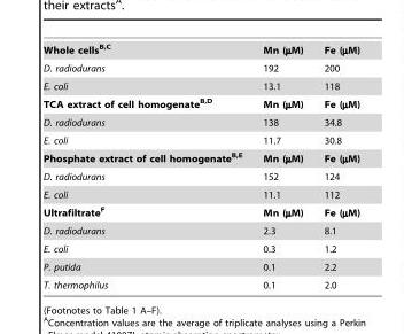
<table><tbody><tr><td>Whole cellsB<sup>,</sup>C</td><td>Mn (µM)</td><td>Fe (µM)</td></tr><tr><td>D. radiodurans</td><td>192</td><td>200</td></tr><tr><td>E. coli</td><td>13.1</td><td>118</td></tr><tr><td>TCA extract of cell homogenateB<sup>,</sup>D</td><td>Mn (µM)</td><td>Fe (µM)</td></tr><tr><td>D. radiodurans</td><td>138</td><td>34.8</td></tr><tr><td>E. coli</td><td>11.7</td><td>30.8</td></tr><tr><td>Phosphate extract of cell homogenateB<sup>,</sup>E</td><td>Mn (µM)</td><td>Fe (µM)</td></tr><tr><td>D. radiodurans</td><td>152</td><td>124</td></tr><tr><td>E. coli</td><td>11.1</td><td>112</td></tr><tr><td>UltrafiltrateF</td><td>Mn (µM)</td><td>Fe (µM)</td></tr><tr><td>D. radiodurans</td><td>2.3</td><td>8.1</td></tr><tr><td>E. coli</td><td>0.3</td><td>1.2</td></tr><tr><td>P. putida</td><td>0.1</td><td>2.2</td></tr><tr><td>T. thermophilus</td><td>0.1</td><td>2.0</td></tr></tbody></table>